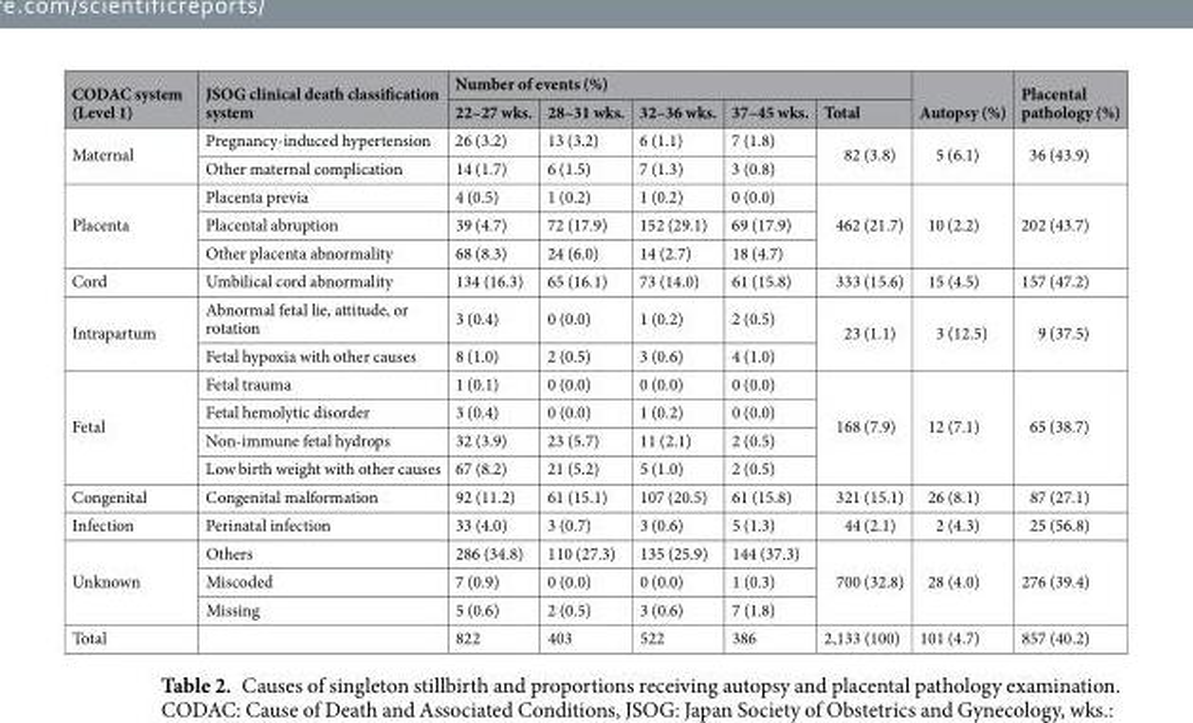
<table><thead><tr><td rowspan="2">CODAC system (Level 1)</td><td rowspan="2">JSOG clinical death classification system</td><td colspan="5">Number of events (%)</td><td rowspan="2">Autopsy (%)</td><td rowspan="2">Placental pathology (%)</td></tr><tr><td>22–27 wks.</td><td>28–31 wks.</td><td>32–36 wks.</td><td>37–45 wks.</td><td>Total</td></tr></thead><tbody><tr><td rowspan="2">Maternal</td><td>Pregnancy-induced hypertension</td><td>26 (3.2)</td><td>13 (3.2)</td><td>6 (1.1)</td><td>7 (1.8)</td><td rowspan="2">82 (3.8)</td><td rowspan="2">5 (6.1)</td><td rowspan="2">36 (43.9)</td></tr><tr><td>Other maternal complication</td><td>14 (1.7)</td><td>6 (1.5)</td><td>7 (1.3)</td><td>3 (0.8)</td></tr><tr><td rowspan="3">Placenta</td><td>Placenta previa</td><td>4 (0.5)</td><td>1 (0.2)</td><td>1 (0.2)</td><td>0 (0.0)</td><td rowspan="3">462 (21.7)</td><td rowspan="3">10 (2.2)</td><td rowspan="3">202 (43.7)</td></tr><tr><td>Placental abruption</td><td>39 (4.7)</td><td>72 (17.9)</td><td>152 (29.1)</td><td>69 (17.9)</td></tr><tr><td>Other placenta abnormality</td><td>68 (8.3)</td><td>24 (6.0)</td><td>14 (2.7)</td><td>18 (4.7)</td></tr><tr><td>Cord</td><td>Umbilical cord abnormality</td><td>134 (16.3)</td><td>65 (16.1)</td><td>73 (14.0)</td><td>61 (15.8)</td><td>333 (15.6)</td><td>15 (4.5)</td><td>157 (47.2)</td></tr><tr><td rowspan="2">Intrapartum</td><td>Abnormal fetal lie, attitude, or rotation</td><td>3 (0.4)</td><td>0 (0.0)</td><td>1 (0.2)</td><td>2 (0.5)</td><td rowspan="2">23 (1.1)</td><td rowspan="2">3 (12.5)</td><td rowspan="2">9 (37.5)</td></tr><tr><td>Fetal hypoxia with other causes</td><td>8 (1.0)</td><td>2 (0.5)</td><td>3 (0.6)</td><td>4 (1.0)</td></tr><tr><td rowspan="4">Fetal</td><td>Fetal trauma</td><td>1 (0.1)</td><td>0 (0.0)</td><td>0 (0.0)</td><td>0 (0.0)</td><td rowspan="4">168 (7.9)</td><td rowspan="4">12 (7.1)</td><td rowspan="4">65 (38.7)</td></tr><tr><td>Fetal hemolytic disorder</td><td>3 (0.4)</td><td>0 (0.0)</td><td>1 (0.2)</td><td>0 (0.0)</td></tr><tr><td>Non-immune fetal hydrops</td><td>32 (3.9)</td><td>23 (5.7)</td><td>11 (2.1)</td><td>2 (0.5)</td></tr><tr><td>Low birth weight with other causes</td><td>67 (8.2)</td><td>21 (5.2)</td><td>5 (1.0)</td><td>2 (0.5)</td></tr><tr><td>Congenital</td><td>Congenital malformation</td><td>92 (11.2)</td><td>61 (15.1)</td><td>107 (20.5)</td><td>61 (15.8)</td><td>321 (15.1)</td><td>26 (8.1)</td><td>87 (27.1)</td></tr><tr><td>Infection</td><td>Perinatal infection</td><td>33 (4.0)</td><td>3 (0.7)</td><td>3 (0.6)</td><td>5 (1.3)</td><td>44 (2.1)</td><td>2 (4.3)</td><td>25 (56.8)</td></tr><tr><td rowspan="3">Unknown</td><td>Others</td><td>286 (34.8)</td><td>110 (27.3)</td><td>135 (25.9)</td><td>144 (37.3)</td><td rowspan="3">700 (32.8)</td><td rowspan="3">28 (4.0)</td><td rowspan="3">276 (39.4)</td></tr><tr><td>Miscoded</td><td>7 (0.9)</td><td>0 (0.0)</td><td>0 (0.0)</td><td>1 (0.3)</td></tr><tr><td>Missing</td><td>5 (0.6)</td><td>2 (0.5)</td><td>3 (0.6)</td><td>7 (1.8)</td></tr><tr><td>Total</td><td></td><td>822</td><td>403</td><td>522</td><td>386</td><td>2,133 (100)</td><td>101 (4.7)</td><td>857 (40.2)</td></tr></tbody></table>